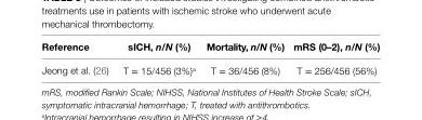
<table><thead><tr><td>Reference</td><td>sicH, n/N (%)</td><td>mortality, n/N (%)</td><td>mRS (0–2), n/N (%)</td></tr></thead><tbody><tr><td>Jeong et al. (26)</td><td>T = 15/456 (3%)<sup>a</sup></td><td>T = 36/456 (8%)</td><td>T = 256/456 (56%)</td></tr></tbody></table>